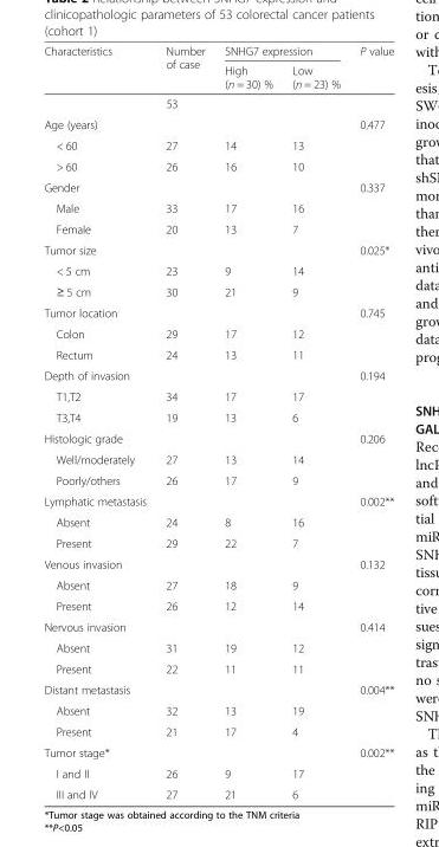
<table><thead><tr><td rowspan="2">Characteristics</td><td rowspan="2">Number of case</td><td colspan="2">SNHG7 expression</td><td rowspan="2">P value</td></tr><tr><td>High (n = 30) %</td><td>Low (n = 23) %</td></tr></thead><tbody><tr><td></td><td>53</td><td></td><td></td><td></td></tr><tr><td>Age (years)</td><td></td><td></td><td></td><td>0.477</td></tr><tr><td>&lt; 60</td><td>27</td><td>14</td><td>13</td><td></td></tr><tr><td>&gt; 60</td><td>26</td><td>16</td><td>10</td><td></td></tr><tr><td>Gender</td><td></td><td></td><td></td><td>0.337</td></tr><tr><td>Male</td><td>33</td><td>17</td><td>16</td><td></td></tr><tr><td>Female</td><td>20</td><td>13</td><td>7</td><td></td></tr><tr><td>Tumor size</td><td></td><td></td><td></td><td>0.025*</td></tr><tr><td>&lt; 5 cm</td><td>23</td><td>9</td><td>14</td><td></td></tr><tr><td>≥ 5 cm</td><td>30</td><td>21</td><td>9</td><td></td></tr><tr><td>Tumor location</td><td></td><td></td><td></td><td>0.745</td></tr><tr><td>Colon</td><td>29</td><td>17</td><td>12</td><td></td></tr><tr><td>Rectum</td><td>24</td><td>13</td><td>11</td><td></td></tr><tr><td>Depth of invasion</td><td></td><td></td><td></td><td>0.194</td></tr><tr><td>T1,T2</td><td>34</td><td>17</td><td>17</td><td></td></tr><tr><td>T3,T4</td><td>19</td><td>13</td><td>6</td><td></td></tr><tr><td>Histologic grade</td><td></td><td></td><td></td><td>0.206</td></tr><tr><td>Well/moderately</td><td>27</td><td>13</td><td>14</td><td></td></tr><tr><td>Poorly/others</td><td>26</td><td>17</td><td>9</td><td></td></tr><tr><td>Lymphatic metastasis</td><td></td><td></td><td></td><td>0.002**</td></tr><tr><td>Absent</td><td>24</td><td>8</td><td>16</td><td></td></tr><tr><td>Present</td><td>29</td><td>22</td><td>7</td><td></td></tr><tr><td>Venous invasion</td><td></td><td></td><td></td><td>0.132</td></tr><tr><td>Absent</td><td>27</td><td>18</td><td>9</td><td></td></tr><tr><td>Present</td><td>26</td><td>12</td><td>14</td><td></td></tr><tr><td>Nervous invasion</td><td></td><td></td><td></td><td>0.414</td></tr><tr><td>Absent</td><td>31</td><td>19</td><td>12</td><td></td></tr><tr><td>Present</td><td>22</td><td>11</td><td>11</td><td></td></tr><tr><td>Distant metastasis</td><td></td><td></td><td></td><td>0.004**</td></tr><tr><td>Absent</td><td>32</td><td>13</td><td>19</td><td></td></tr><tr><td>Present</td><td>21</td><td>17</td><td>4</td><td></td></tr><tr><td>Tumor stage*</td><td></td><td></td><td></td><td>0.002**</td></tr><tr><td>I and II</td><td>26</td><td>9</td><td>17</td><td></td></tr><tr><td>III and IV</td><td>27</td><td>21</td><td>6</td><td></td></tr></tbody></table>